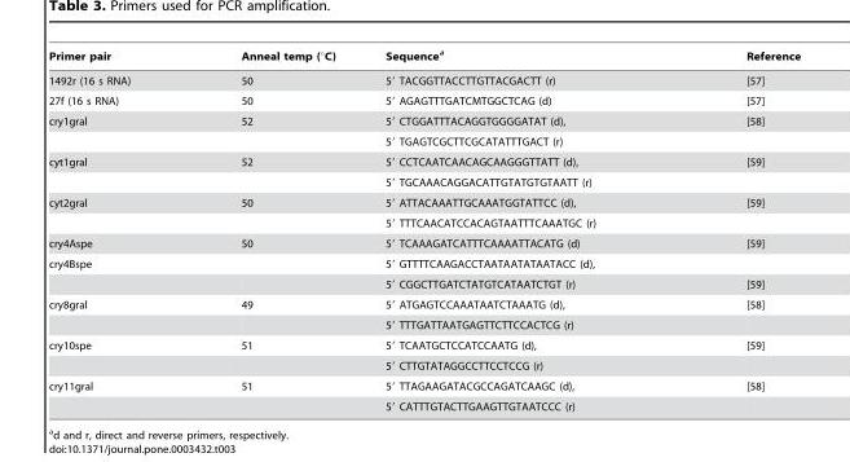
<table><thead><tr><td>Primer pair</td><td>Anneal temp (°C)</td><td>Sequence<sup>a</sup></td><td>Reference</td></tr></thead><tbody><tr><td>1492r (16 s RNA)</td><td>50</td><td>5′ TACGGTTACCTTGTTACGACTT (r)</td><td>[57]</td></tr><tr><td>27f (16 s RNA)</td><td>50</td><td>5′ AGAGTTTGATCMTGGCTCAG (d)</td><td>[57]</td></tr><tr><td rowspan="2">cry1gral</td><td>52</td><td>5′ CTGGATTTACAGGTGGGGATAT (d),</td><td>[58]</td></tr><tr><td></td><td>5′ TGAGTCGCTTCGCATATTTGACT (r)</td><td></td></tr><tr><td rowspan="2">cyt1gral</td><td>52</td><td>5′ CCTCAATCAACAGCAAGGGTTATT (d),</td><td>[59]</td></tr><tr><td></td><td>5′ TGCAAACAGGACATTGTATGTGTAATT (r)</td><td></td></tr><tr><td rowspan="2">cyt2gral</td><td>50</td><td>5′ ATTACAAATTGCAAATGGTATTCC (d),</td><td>[59]</td></tr><tr><td></td><td>5′ TTTCAACATCCACAGTAATTTCAAATGC (r)</td><td></td></tr><tr><td>cry4Aspe</td><td>50</td><td>5′ TCAAAGATCATTTCAAAATTACATG (d)</td><td>[59]</td></tr><tr><td rowspan="2">cry4Bspe</td><td></td><td>5′ GTTTTCAAGACCTAATAATATAATACC (d),</td><td></td></tr><tr><td></td><td>5′ CGGCTTGATCTATGTCATAATCTGT (r)</td><td>[59]</td></tr><tr><td rowspan="2">cry8gral</td><td>49</td><td>5′ ATGAGTCCAAATAATCTAAATG (d),</td><td>[58]</td></tr><tr><td></td><td>5′ TTTGATTAATGAGTTCTTCCACTCG (r)</td><td></td></tr><tr><td rowspan="2">cry10spe</td><td>51</td><td>5′ TCAATGCTCCATCCAATG (d),</td><td>[59]</td></tr><tr><td></td><td>5′ CTTGTATAGGCCTTCCTCCG (r)</td><td></td></tr><tr><td rowspan="2">cry11gral</td><td>51</td><td>5′ TTAGAAGATACGCCAGATCAAGC (d),</td><td>[58]</td></tr><tr><td></td><td>5′ CATTTGTACTTGAAGTTGTAATCCC (r)</td><td></td></tr></tbody></table>